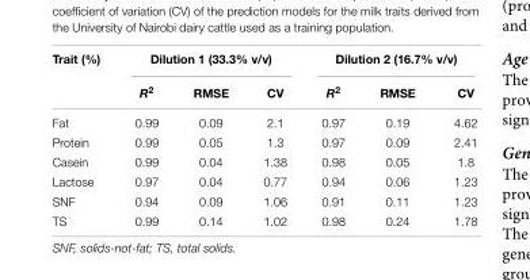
<table><thead><tr><td rowspan="2">Trait (%)</td><td colspan="3">Dilution 1 (33.3% v/v)</td><td colspan="3">Dilution 2 (16.7% v/v)</td></tr><tr><td>R<sup>2</sup></td><td>RMSE</td><td>CV</td><td>R<sup>2</sup></td><td>RMSE</td><td>CV</td></tr></thead><tbody><tr><td>Fat</td><td>0.99</td><td>0.09</td><td>2.1</td><td>0.97</td><td>0.19</td><td>4.62</td></tr><tr><td>Protein</td><td>0.99</td><td>0.05</td><td>1.3</td><td>0.97</td><td>0.09</td><td>2.41</td></tr><tr><td>Casein</td><td>0.99</td><td>0.04</td><td>1.38</td><td>0.98</td><td>0.05</td><td>1.8</td></tr><tr><td>Lactose</td><td>0.97</td><td>0.04</td><td>0.77</td><td>0.94</td><td>0.06</td><td>1.23</td></tr><tr><td>SNF</td><td>0.94</td><td>0.09</td><td>1.06</td><td>0.91</td><td>0.11</td><td>1.23</td></tr><tr><td>TS</td><td>0.99</td><td>0.14</td><td>1.02</td><td>0.98</td><td>0.24</td><td>1.78</td></tr></tbody></table>